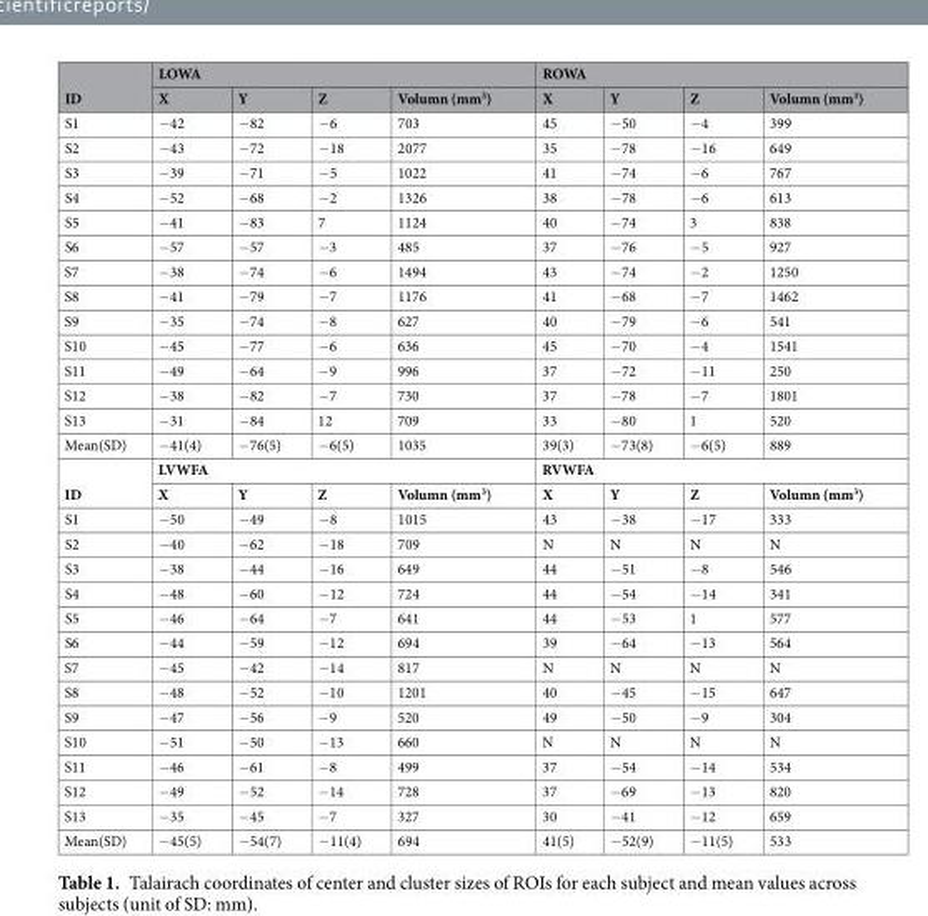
<table><thead><tr><td rowspan="2">ID</td><td colspan="4">LOWA</td><td colspan="4">ROWA</td></tr><tr><td>X</td><td>Y</td><td>Z</td><td>Volumn (mm<sup>3</sup>)</td><td>X</td><td>Y</td><td>Z</td><td>Volumn (mm<sup>3</sup>)</td></tr></thead><tbody><tr><td>S1</td><td>−42</td><td>−82</td><td>−6</td><td>703</td><td>45</td><td>−50</td><td>−4</td><td>399</td></tr><tr><td>S2</td><td>−43</td><td>−72</td><td>−18</td><td>2077</td><td>35</td><td>−78</td><td>−16</td><td>649</td></tr><tr><td>S3</td><td>−39</td><td>−71</td><td>−5</td><td>1022</td><td>41</td><td>−74</td><td>−6</td><td>767</td></tr><tr><td>S4</td><td>−52</td><td>−68</td><td>−2</td><td>1326</td><td>38</td><td>−78</td><td>−6</td><td>613</td></tr><tr><td>S5</td><td>−41</td><td>−83</td><td>7</td><td>1124</td><td>40</td><td>−74</td><td>3</td><td>838</td></tr><tr><td>S6</td><td>−57</td><td>−57</td><td>−3</td><td>485</td><td>37</td><td>−76</td><td>−5</td><td>927</td></tr><tr><td>S7</td><td>−38</td><td>−74</td><td>−6</td><td>1494</td><td>43</td><td>−74</td><td>−2</td><td>1250</td></tr><tr><td>S8</td><td>−41</td><td>−79</td><td>−7</td><td>1176</td><td>41</td><td>−68</td><td>−7</td><td>1462</td></tr><tr><td>S9</td><td>−35</td><td>−74</td><td>−8</td><td>627</td><td>40</td><td>−79</td><td>−6</td><td>541</td></tr><tr><td>S10</td><td>−45</td><td>−77</td><td>−6</td><td>636</td><td>45</td><td>−70</td><td>−4</td><td>1541</td></tr><tr><td>S11</td><td>−49</td><td>−64</td><td>−9</td><td>996</td><td>37</td><td>−72</td><td>−11</td><td>250</td></tr><tr><td>S12</td><td>−38</td><td>−82</td><td>−7</td><td>730</td><td>37</td><td>−78</td><td>−7</td><td>1801</td></tr><tr><td>S13</td><td>−31</td><td>−84</td><td>12</td><td>709</td><td>33</td><td>−80</td><td>1</td><td>520</td></tr><tr><td>Mean(SD)</td><td>−41(4)</td><td>−76(5)</td><td>−6(5)</td><td>1035</td><td>39(3)</td><td>−73(8)</td><td>−6(5)</td><td>889</td></tr><tr><td rowspan="2">ID</td><td colspan="4">LVWFA</td><td colspan="4">RVWFA</td></tr><tr><td>X</td><td>Y</td><td>Z</td><td>Volumn (mm<sup>3</sup>)</td><td>X</td><td>Y</td><td>Z</td><td>Volumn (mm<sup>3</sup>)</td></tr><tr><td>S1</td><td>−50</td><td>−49</td><td>−8</td><td>1015</td><td>43</td><td>−38</td><td>−17</td><td>333</td></tr><tr><td>S2</td><td>−40</td><td>−62</td><td>−18</td><td>709</td><td>N</td><td>N</td><td>N</td><td>N</td></tr><tr><td>S3</td><td>−38</td><td>−44</td><td>−16</td><td>649</td><td>44</td><td>−51</td><td>−8</td><td>546</td></tr><tr><td>S4</td><td>−48</td><td>−60</td><td>−12</td><td>724</td><td>44</td><td>−54</td><td>−14</td><td>341</td></tr><tr><td>S5</td><td>−46</td><td>−64</td><td>−7</td><td>641</td><td>44</td><td>−53</td><td>1</td><td>577</td></tr><tr><td>S6</td><td>−44</td><td>−59</td><td>−12</td><td>694</td><td>39</td><td>−64</td><td>−13</td><td>564</td></tr><tr><td>S7</td><td>−45</td><td>−42</td><td>−14</td><td>817</td><td>N</td><td>N</td><td>N</td><td>N</td></tr><tr><td>S8</td><td>−48</td><td>−52</td><td>−10</td><td>1201</td><td>40</td><td>−45</td><td>−15</td><td>647</td></tr><tr><td>S9</td><td>−47</td><td>−56</td><td>−9</td><td>520</td><td>49</td><td>−50</td><td>−9</td><td>304</td></tr><tr><td>S10</td><td>−51</td><td>−50</td><td>−13</td><td>660</td><td>N</td><td>N</td><td>N</td><td>N</td></tr><tr><td>S11</td><td>−46</td><td>−61</td><td>−8</td><td>499</td><td>37</td><td>−54</td><td>−14</td><td>534</td></tr><tr><td>S12</td><td>−49</td><td>−52</td><td>−14</td><td>728</td><td>37</td><td>−69</td><td>−13</td><td>820</td></tr><tr><td>S13</td><td>−35</td><td>−45</td><td>−7</td><td>327</td><td>30</td><td>−41</td><td>−12</td><td>659</td></tr><tr><td>Mean(SD)</td><td>−45(5)</td><td>−54(7)</td><td>−11(4)</td><td>694</td><td>41(5)</td><td>−52(9)</td><td>−11(5)</td><td>533</td></tr></tbody></table>